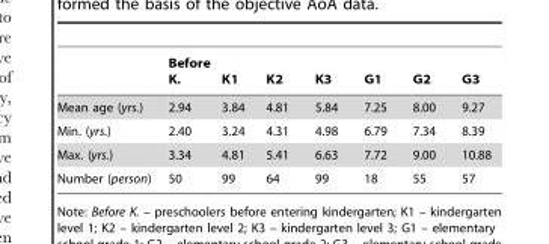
<table><thead><tr><td></td><td>Before K.</td><td>K1</td><td>K2</td><td>K3</td><td>G1</td><td>G2</td><td>G3</td></tr></thead><tbody><tr><td>Mean age (yrs.)</td><td>2.94</td><td>3.84</td><td>4.81</td><td>5.84</td><td>7.25</td><td>8.00</td><td>9.27</td></tr><tr><td>Min. (yrs.)</td><td>2.40</td><td>3.24</td><td>4.31</td><td>4.98</td><td>6.79</td><td>7.34</td><td>8.39</td></tr><tr><td>Max. (yrs.)</td><td>3.34</td><td>4.81</td><td>5.41</td><td>6.63</td><td>7.72</td><td>9.00</td><td>10.88</td></tr><tr><td>Number (person)</td><td>50</td><td>99</td><td>64</td><td>99</td><td>18</td><td>55</td><td>57</td></tr></tbody></table>